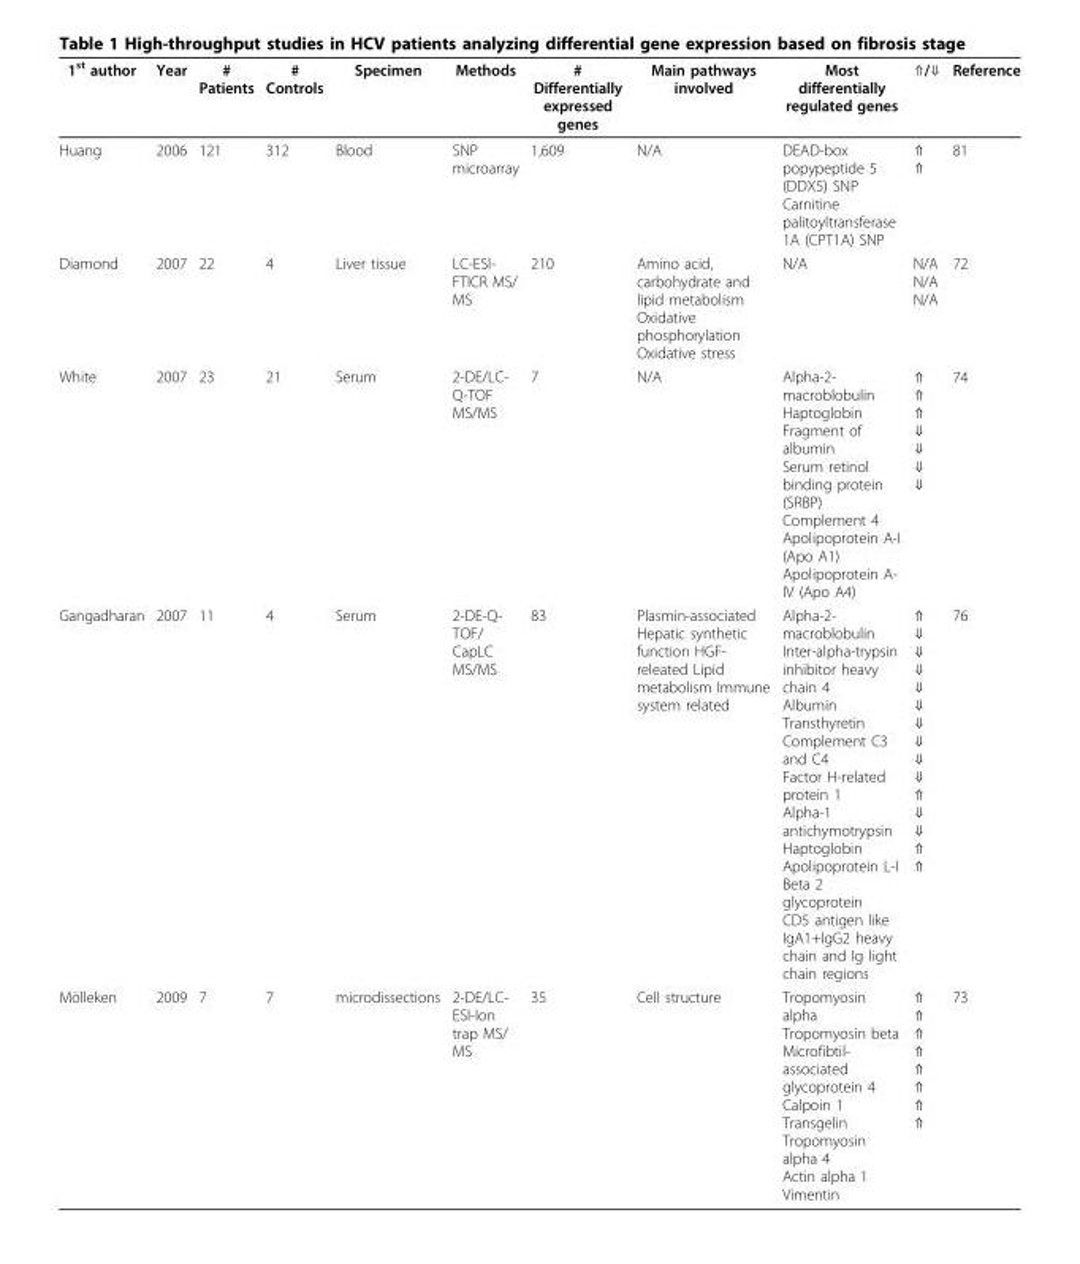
<table><thead><tr><td>1<sup>st</sup> author</td><td>Year</td><td># Patients</td><td># Controls</td><td>Specimen</td><td>Methods</td><td># Differentially expressed genes</td><td>Main pathways involved</td><td>Most differentially regulated genes</td><td>⇑/⇓</td><td>Reference</td></tr></thead><tbody><tr><td>Huang</td><td>2006</td><td>121</td><td>312</td><td>Blood</td><td>SNP microarray</td><td>1,609</td><td>N/A</td><td>DEAD-box popypeptide 5 (DDX5) SNP Carnitine palitoyltransferase 1A (CPT1A) SNP</td><td>⇑ ⇑</td><td>81</td></tr><tr><td>Diamond</td><td>2007</td><td>22</td><td>4</td><td>Liver tissue</td><td>LC-ESI- FTICR MS/ MS</td><td>210</td><td>Amino acid, carbohydrate and lipid metabolism Oxidative phosphorylation Oxidative stress</td><td>N/A</td><td>N/A N/A N/A</td><td>72</td></tr><tr><td>White</td><td>2007</td><td>23</td><td>21</td><td>Serum</td><td>2-DE/LC- Q-TOF MS/MS</td><td>7</td><td>N/A</td><td>Alpha-2- macroblobulin Haptoglobin Fragment of albumin Serum retinol binding protein (SRBP) Complement 4 Apolipoprotein A-I (Apo A1) Apolipoprotein A- IV (Apo A4)</td><td>⇑ ⇑ ⇑ ⇓ ⇓ ⇓ ⇓</td><td>74</td></tr><tr><td>Gangadharan</td><td>2007</td><td>11</td><td>4</td><td>Serum</td><td>2-DE-Q- TOF/ CapLC MS/MS</td><td>83</td><td>Plasmin-associated Hepatic synthetic function HGF- releated Lipid metabolism Immune system related</td><td>Alpha-2- macroblobulin Inter-alpha-trypsin inhibitor heavy chain 4 Albumin Transthyretin Complement C3 and C4 Factor H-related protein 1 Alpha-1 antichymotrypsin Haptoglobin Apolipoprotein L-I Beta 2 glycoprotein CD5 antigen like IgA1+IgG2 heavy chain and Ig light chain regions</td><td>⇑ ⇓ ⇓ ⇓ ⇓ ⇓ ⇓ ⇓ ⇓ ⇓ ⇑ ⇓ ⇓ ⇑ ⇑</td><td>76</td></tr><tr><td>Mölleken</td><td>2009</td><td>7</td><td>7</td><td>microdissections</td><td>2-DE/LC- ESI-Ion trap MS/ MS</td><td>35</td><td>Cell structure</td><td>Tropomyosin alpha Tropomyosin beta Microfibtil- associated glycoprotein 4 Calpoin 1 Transgelin Tropomyosin alpha 4 Actin alpha 1 Vimentin</td><td>⇑ ⇑ ⇑ ⇑ ⇑ ⇑ ⇑ ⇑</td><td>73</td></tr></tbody></table>